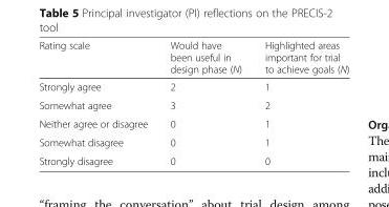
<table><thead><tr><td>Rating scale</td><td>Would have been useful in design phase (N)</td><td>Highlighted areas important for trial to achieve goals (N)</td></tr></thead><tbody><tr><td>Strongly agree</td><td>2</td><td>1</td></tr><tr><td>Somewhat agree</td><td>3</td><td>2</td></tr><tr><td>Neither agree or disagree</td><td>0</td><td>1</td></tr><tr><td>Somewhat disagree</td><td>0</td><td>1</td></tr><tr><td>Strongly disagree</td><td>0</td><td>0</td></tr></tbody></table>